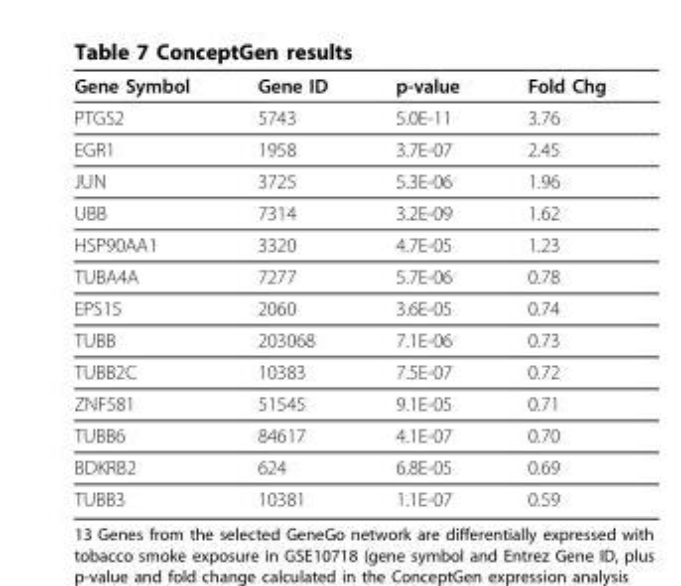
<table><thead><tr><td>Gene Symbol</td><td>Gene ID</td><td>p-value</td><td>Fold Chg</td></tr></thead><tbody><tr><td>PTGS2</td><td>5743</td><td>5.0E-11</td><td>3.76</td></tr><tr><td>EGR1</td><td>1958</td><td>3.7E-07</td><td>2.45</td></tr><tr><td>JUN</td><td>3725</td><td>5.3E-06</td><td>1.96</td></tr><tr><td>UBB</td><td>7314</td><td>3.2E-09</td><td>1.62</td></tr><tr><td>HSP90AA1</td><td>3320</td><td>4.7E-05</td><td>1.23</td></tr><tr><td>TUBA4A</td><td>7277</td><td>5.7E-06</td><td>0.78</td></tr><tr><td>EPS15</td><td>2060</td><td>3.6E-05</td><td>0.74</td></tr><tr><td>TUBB</td><td>203068</td><td>7.1E-06</td><td>0.73</td></tr><tr><td>TUBB2C</td><td>10383</td><td>7.5E-07</td><td>0.72</td></tr><tr><td>ZNF581</td><td>51545</td><td>9.1E-05</td><td>0.71</td></tr><tr><td>TUBB6</td><td>84617</td><td>4.1E-07</td><td>0.70</td></tr><tr><td>BDKRB2</td><td>624</td><td>6.8E-05</td><td>0.69</td></tr><tr><td>TUBB3</td><td>10381</td><td>1.1E-07</td><td>0.59</td></tr></tbody></table>